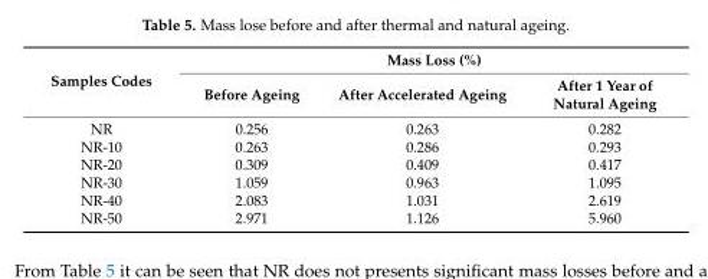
<table><thead><tr><td rowspan="2">Samples Codes</td><td colspan="3">Mass Loss (%)</td></tr><tr><td>Before Ageing</td><td>After Accelerated Ageing</td><td>After 1 Year of Natural Ageing</td></tr></thead><tbody><tr><td>NR</td><td>0.256</td><td>0.263</td><td>0.282</td></tr><tr><td>NR-10</td><td>0.263</td><td>0.286</td><td>0.293</td></tr><tr><td>NR-20</td><td>0.309</td><td>0.409</td><td>0.417</td></tr><tr><td>NR-30</td><td>1.059</td><td>0.963</td><td>1.095</td></tr><tr><td>NR-40</td><td>2.083</td><td>1.031</td><td>2.619</td></tr><tr><td>NR-50</td><td>2.971</td><td>1.126</td><td>5.960</td></tr></tbody></table>